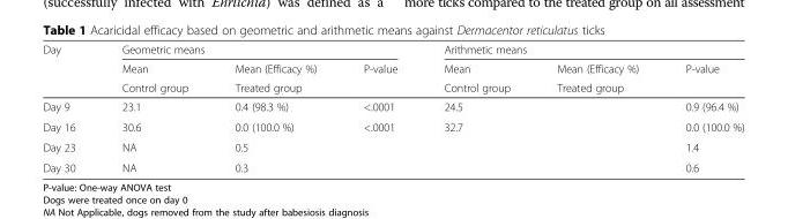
<table><thead><tr><td rowspan="3">Day</td><td colspan="3">Geometric means</td><td colspan="3">Arithmetic means</td></tr><tr><td rowspan="2">Mean Control group</td><td rowspan="2">Mean (Efficacy %) Treated group</td><td rowspan="2">P-value</td><td rowspan="2">Mean Control group</td><td rowspan="2">Mean (Efficacy %) Treated group</td><td rowspan="2">P-value</td></tr><tr></tr></thead><tbody><tr><td>Day 9</td><td>23.1</td><td>0.4 (98.3 %)</td><td>&lt;.0001</td><td>24.5</td><td></td><td>0.9 (96.4 %)</td></tr><tr><td>Day 16</td><td>30.6</td><td>0.0 (100.0 %)</td><td>&lt;.0001</td><td>32.7</td><td></td><td>0.0 (100.0 %)</td></tr><tr><td>Day 23</td><td>NA</td><td>0.5</td><td></td><td></td><td></td><td>1.4</td></tr><tr><td>Day 30</td><td>NA</td><td>0.3</td><td></td><td></td><td></td><td>0.6</td></tr></tbody></table>